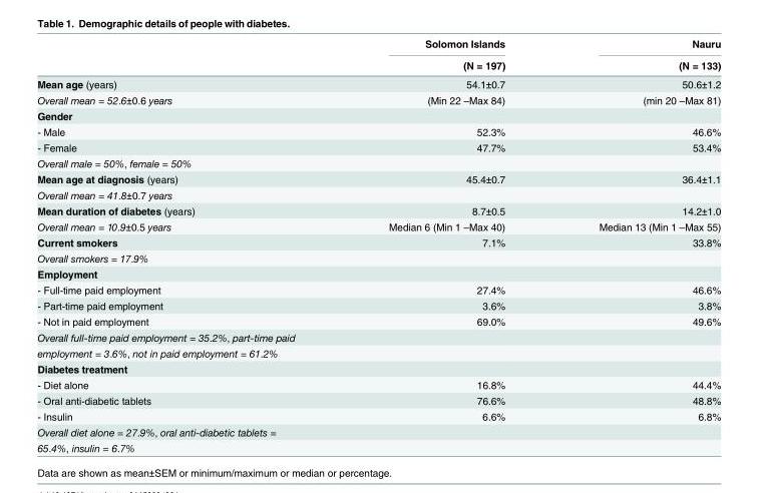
<table><thead><tr><td rowspan="2"></td><td rowspan="2">Solomon Islands (N = 197)</td><td rowspan="2">Nauru (N = 133)</td></tr><tr></tr></thead><tbody><tr><td>Mean age (years)</td><td>54.1±0.7</td><td>50.6±1.2</td></tr><tr><td>Overall mean = 52.6±0.6 years</td><td>(Min 22 –Max 84)</td><td>(min 20 –Max 81)</td></tr><tr><td colspan="3">Gender</td></tr><tr><td>- Male</td><td>52.3%</td><td>46.6%</td></tr><tr><td>- Female</td><td>47.7%</td><td>53.4%</td></tr><tr><td colspan="3">Overall male = 50%, female = 50%</td></tr><tr><td>Mean age at diagnosis (years)</td><td>45.4±0.7</td><td>36.4±1.1</td></tr><tr><td colspan="3">Overall mean = 41.8±0.7 years</td></tr><tr><td>Mean duration of diabetes (years)</td><td>8.7±0.5</td><td>14.2±1.0</td></tr><tr><td>Overall mean = 10.9±0.5 years</td><td>Median 6 (Min 1 –Max 40)</td><td>Median 13 (Min 1 –Max 55)</td></tr><tr><td>Current smokers</td><td>7.1%</td><td>33.8%</td></tr><tr><td colspan="3">Overall smokers = 17.9%</td></tr><tr><td colspan="3">Employment</td></tr><tr><td>- Full-time paid employment</td><td>27.4%</td><td>46.6%</td></tr><tr><td>- Part-time paid employment</td><td>3.6%</td><td>3.8%</td></tr><tr><td>- Not in paid employment</td><td>69.0%</td><td>49.6%</td></tr><tr><td colspan="3">Overall full-time paid employment = 35.2%, part-time paid</td></tr><tr><td colspan="3">employment = 3.6%, not in paid employment = 61.2%</td></tr><tr><td colspan="3">Diabetes treatment</td></tr><tr><td>- Diet alone</td><td>16.8%</td><td>44.4%</td></tr><tr><td>- Oral anti-diabetic tablets</td><td>76.6%</td><td>48.8%</td></tr><tr><td>- Insulin</td><td>6.6%</td><td>6.8%</td></tr><tr><td colspan="3">Overall diet alone = 27.9%, oral anti-diabetic tablets =</td></tr><tr><td>65.4%, insulin = 6.7%</td><td></td><td></td></tr></tbody></table>